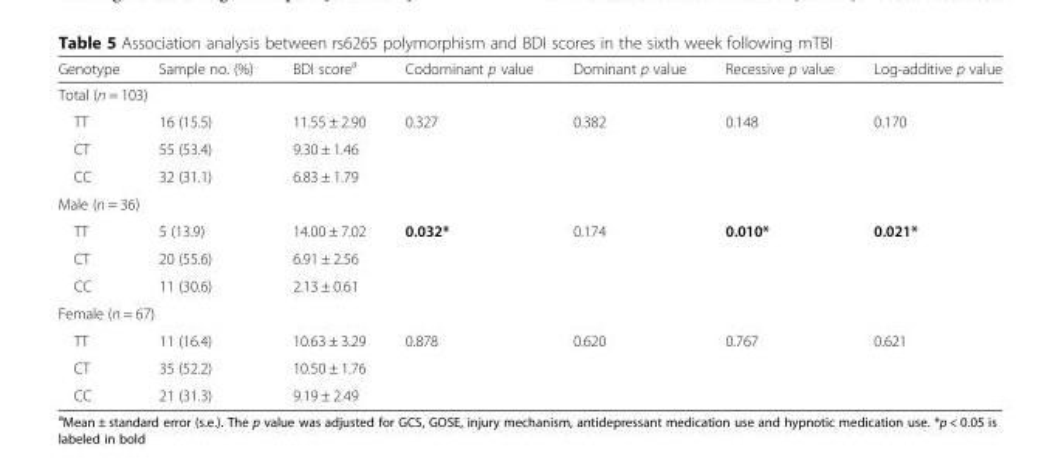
<table><thead><tr><td>Genotype</td><td>Sample no. (%)</td><td>BDI score<sup>a</sup></td><td>Codominant p value</td><td>Dominant p value</td><td>Recessive p value</td><td>Log-additive p value</td></tr></thead><tbody><tr><td colspan="7">Total (n = 103)</td></tr><tr><td>TT</td><td>16 (15.5)</td><td>11.55 ± 2.90</td><td>0.327</td><td>0.382</td><td>0.148</td><td>0.170</td></tr><tr><td>CT</td><td>55 (53.4)</td><td>9.30 ± 1.46</td><td></td><td></td><td></td><td></td></tr><tr><td>CC</td><td>32 (31.1)</td><td>6.83 ± 1.79</td><td></td><td></td><td></td><td></td></tr><tr><td colspan="7">Male (n = 36)</td></tr><tr><td>TT</td><td>5 (13.9)</td><td>14.00 ± 7.02</td><td>0.032*</td><td>0.174</td><td>0.010*</td><td>0.021*</td></tr><tr><td>CT</td><td>20 (55.6)</td><td>6.91 ± 2.56</td><td></td><td></td><td></td><td></td></tr><tr><td>CC</td><td>11 (30.6)</td><td>2.13 ± 0.61</td><td></td><td></td><td></td><td></td></tr><tr><td colspan="7">Female (n = 67)</td></tr><tr><td>TT</td><td>11 (16.4)</td><td>10.63 ± 3.29</td><td>0.878</td><td>0.620</td><td>0.767</td><td>0.621</td></tr><tr><td>CT</td><td>35 (52.2)</td><td>10.50 ± 1.76</td><td></td><td></td><td></td><td></td></tr><tr><td>CC</td><td>21 (31.3)</td><td>9.19 ± 2.49</td><td></td><td></td><td></td><td></td></tr></tbody></table>